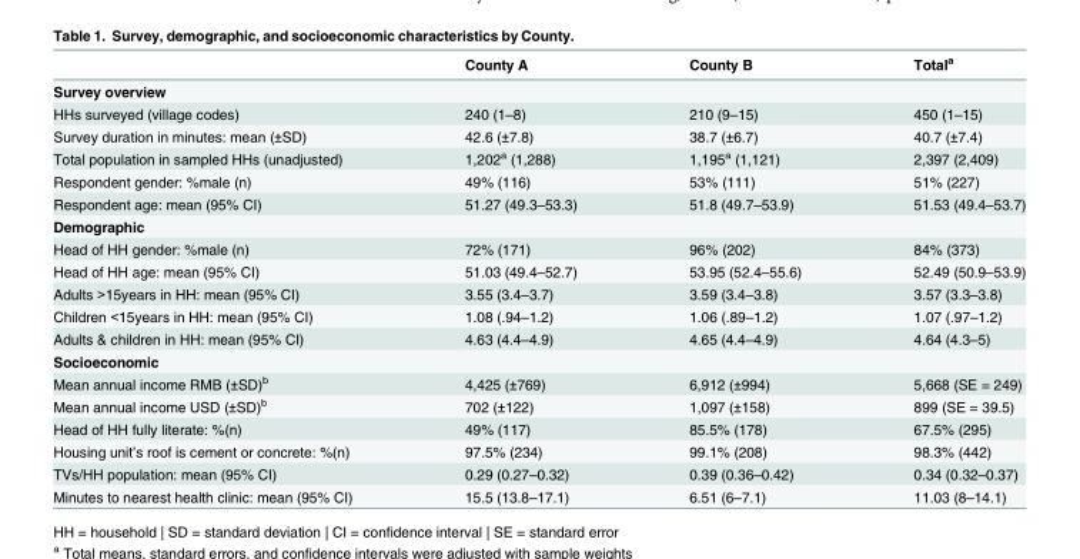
<table><thead><tr><td></td><td>County A</td><td>County B</td><td>Total<sup>a</sup></td></tr></thead><tbody><tr><td colspan="4">Survey overview</td></tr><tr><td>HHs surveyed (village codes)</td><td>240 (1–8)</td><td>210 (9–15)</td><td>450 (1–15)</td></tr><tr><td>Survey duration in minutes: mean (±SD)</td><td>42.6 (±7.8)</td><td>38.7 (±6.7)</td><td>40.7 (±7.4)</td></tr><tr><td>Total population in sampled HHs (unadjusted)</td><td>1,202<sup>a</sup> (1,288)</td><td>1,195<sup>a</sup> (1,121)</td><td>2,397 (2,409)</td></tr><tr><td>Respondent gender: %male (n)</td><td>49% (116)</td><td>53% (111)</td><td>51% (227)</td></tr><tr><td>Respondent age: mean (95% CI)</td><td>51.27 (49.3–53.3)</td><td>51.8 (49.7–53.9)</td><td>51.53 (49.4–53.7)</td></tr><tr><td colspan="4">Demographic</td></tr><tr><td>Head of HH gender: %male (n)</td><td>72% (171)</td><td>96% (202)</td><td>84% (373)</td></tr><tr><td>Head of HH age: mean (95% CI)</td><td>51.03 (49.4–52.7)</td><td>53.95 (52.4–55.6)</td><td>52.49 (50.9–53.9)</td></tr><tr><td>Adults &gt;15years in HH: mean (95% CI)</td><td>3.55 (3.4–3.7)</td><td>3.59 (3.4–3.8)</td><td>3.57 (3.3–3.8)</td></tr><tr><td>Children &lt;15years in HH: mean (95% CI)</td><td>1.08 (.94–1.2)</td><td>1.06 (.89–1.2)</td><td>1.07 (.97–1.2)</td></tr><tr><td>Adults &amp; children in HH: mean (95% CI)</td><td>4.63 (4.4–4.9)</td><td>4.65 (4.4–4.9)</td><td>4.64 (4.3–5)</td></tr><tr><td colspan="4">Socioeconomic</td></tr><tr><td>Mean annual income RMB (±SD)<sup>b</sup></td><td>4,425 (±769)</td><td>6,912 (±994)</td><td>5,668 (SE = 249)</td></tr><tr><td>Mean annual income USD (±SD)<sup>b</sup></td><td>702 (±122)</td><td>1,097 (±158)</td><td>899 (SE = 39.5)</td></tr><tr><td>Head of HH fully literate: %(n)</td><td>49% (117)</td><td>85.5% (178)</td><td>67.5% (295)</td></tr><tr><td>Housing unit’s roof is cement or concrete: %(n)</td><td>97.5% (234)</td><td>99.1% (208)</td><td>98.3% (442)</td></tr><tr><td>TVs/HH population: mean (95% CI)</td><td>0.29 (0.27–0.32)</td><td>0.39 (0.36–0.42)</td><td>0.34 (0.32–0.37)</td></tr><tr><td>Minutes to nearest health clinic: mean (95% CI)</td><td>15.5 (13.8–17.1)</td><td>6.51 (6–7.1)</td><td>11.03 (8–14.1)</td></tr></tbody></table>